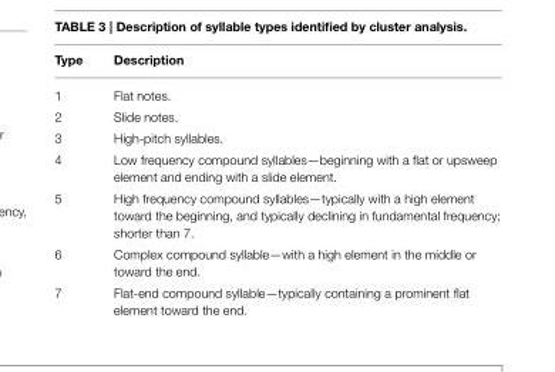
<table><thead><tr><td>Type</td><td>Description</td></tr></thead><tbody><tr><td>1</td><td>Flat notes.</td></tr><tr><td>2</td><td>Slide notes.</td></tr><tr><td>3</td><td>High-pitch syllables.</td></tr><tr><td>4</td><td>Low frequency compound syllables—beginning with a flat or upsweep element and ending with a slide element.</td></tr><tr><td>5</td><td>High frequency compound syllables—typically with a high element toward the beginning, and typically declining in fundamental frequency; shorter than 7.</td></tr><tr><td>6</td><td>Complex compound syllable—with a high element in the middle or toward the end.</td></tr><tr><td>7</td><td>Flat-end compound syllable—typically containing a prominent flat element toward the end.</td></tr></tbody></table>